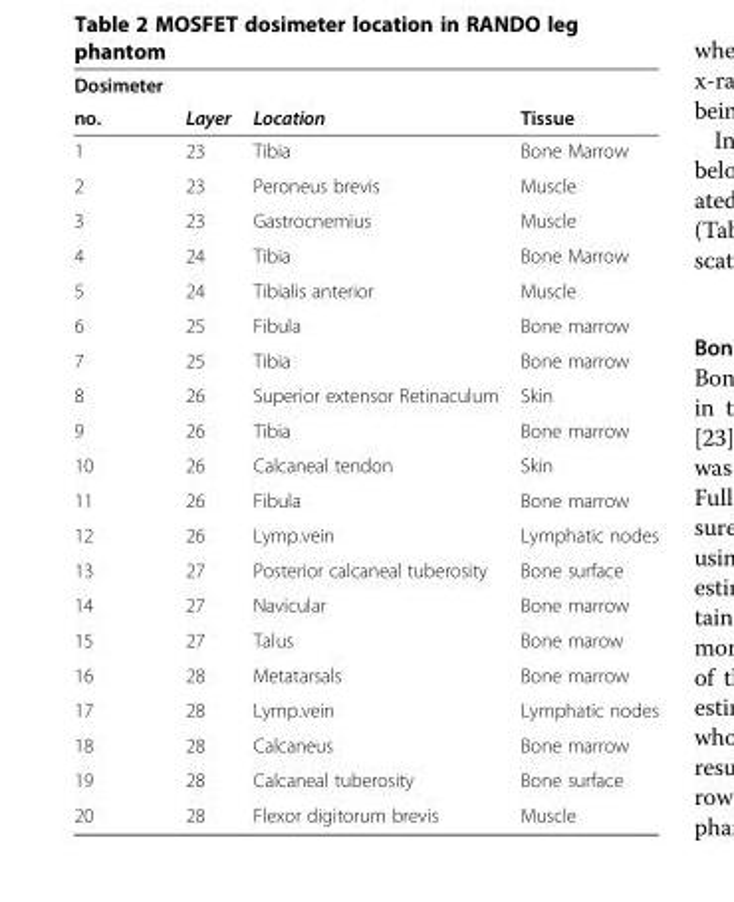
<table><thead><tr><td rowspan="2">Dosimeter no.</td><td rowspan="2">Layer</td><td rowspan="2">Location</td><td rowspan="2">Tissue</td></tr><tr></tr></thead><tbody><tr><td>1</td><td>23</td><td>Tibia</td><td>Bone Marrow</td></tr><tr><td>2</td><td>23</td><td>Peroneus brevis</td><td>Muscle</td></tr><tr><td>3</td><td>23</td><td>Gastrocnemius</td><td>Muscle</td></tr><tr><td>4</td><td>24</td><td>Tibia</td><td>Bone Marrow</td></tr><tr><td>5</td><td>24</td><td>Tibialis anterior</td><td>Muscle</td></tr><tr><td>6</td><td>25</td><td>Fibula</td><td>Bone marrow</td></tr><tr><td>7</td><td>25</td><td>Tibia</td><td>Bone marrow</td></tr><tr><td>8</td><td>26</td><td>Superior extensor Retinaculum</td><td>Skin</td></tr><tr><td>9</td><td>26</td><td>Tibia</td><td>Bone marrow</td></tr><tr><td>10</td><td>26</td><td>Calcaneal tendon</td><td>Skin</td></tr><tr><td>11</td><td>26</td><td>Fibula</td><td>Bone marrow</td></tr><tr><td>12</td><td>26</td><td>Lymp.vein</td><td>Lymphatic nodes</td></tr><tr><td>13</td><td>27</td><td>Posterior calcaneal tuberosity</td><td>Bone surface</td></tr><tr><td>14</td><td>27</td><td>Navicular</td><td>Bone marrow</td></tr><tr><td>15</td><td>27</td><td>Talus</td><td>Bone marow</td></tr><tr><td>16</td><td>28</td><td>Metatarsals</td><td>Bone marrow</td></tr><tr><td>17</td><td>28</td><td>Lymp.vein</td><td>Lymphatic nodes</td></tr><tr><td>18</td><td>28</td><td>Calcaneus</td><td>Bone marrow</td></tr><tr><td>19</td><td>28</td><td>Calcaneal tuberosity</td><td>Bone surface</td></tr><tr><td>20</td><td>28</td><td>Flexor digitorum brevis</td><td>Muscle</td></tr></tbody></table>